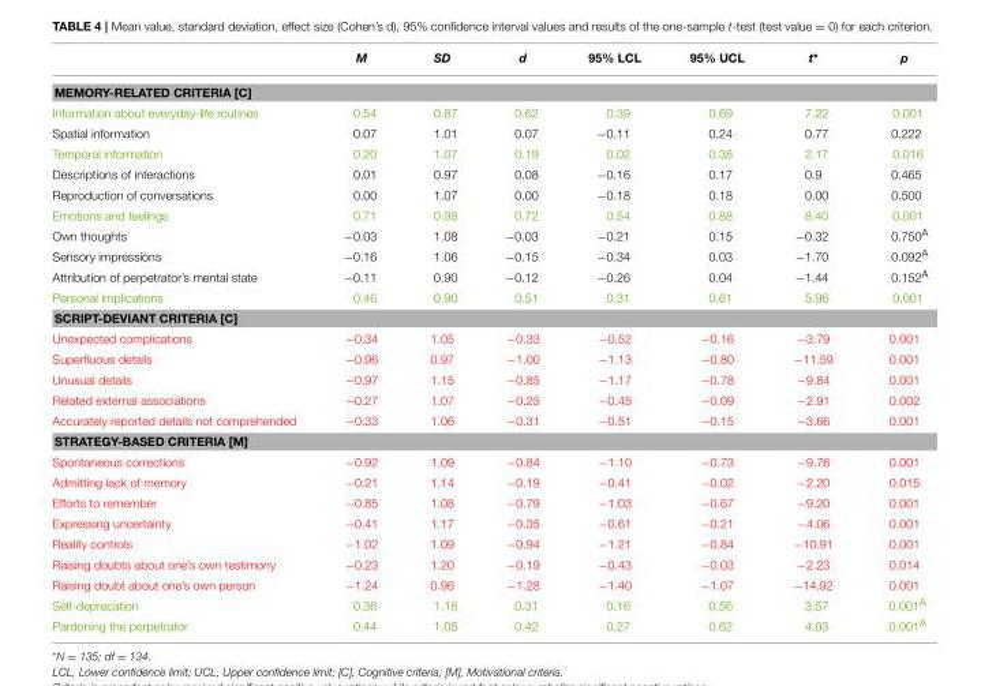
<table><thead><tr><td></td><td>M</td><td>SD</td><td>d</td><td>95% LCL</td><td>95% UCL</td><td>t*</td><td>p</td></tr></thead><tbody><tr><td colspan="8">MEMORY-RELATED CRITERIA [C]</td></tr><tr><td>Information about everyday-life routines</td><td>0.54</td><td>0.87</td><td>0.62</td><td>0.39</td><td>0.69</td><td>7.22</td><td>0.001</td></tr><tr><td>Spatial information</td><td>0.07</td><td>1.01</td><td>0.07</td><td>−0.11</td><td>0.24</td><td>0.77</td><td>0.222</td></tr><tr><td>Temporal information</td><td>0.20</td><td>1.07</td><td>0.19</td><td>0.02</td><td>0.38</td><td>2.17</td><td>0.016</td></tr><tr><td>Descriptions of interactions</td><td>0.01</td><td>0.97</td><td>0.08</td><td>−0.16</td><td>0.17</td><td>0.9</td><td>0.465</td></tr><tr><td>Reproduction of conversations</td><td>0.00</td><td>1.07</td><td>0.00</td><td>−0.18</td><td>0.18</td><td>0.00</td><td>0.500</td></tr><tr><td>Emotions and feelings</td><td>0.71</td><td>0.98</td><td>0.72</td><td>0.54</td><td>0.88</td><td>8.40</td><td>0.001</td></tr><tr><td>Own thoughts</td><td>−0.03</td><td>1.08</td><td>−0.03</td><td>−0.21</td><td>0.15</td><td>−0.32</td><td>0.750<sup>A</sup></td></tr><tr><td>Sensory impressions</td><td>−0.16</td><td>1.06</td><td>−0.15</td><td>−0.34</td><td>0.03</td><td>−1.70</td><td>0.092<sup>A</sup></td></tr><tr><td>Attribution of perpetrator’s mental state</td><td>−0.11</td><td>0.90</td><td>−0.12</td><td>−0.26</td><td>0.04</td><td>−1.44</td><td>0.152<sup>A</sup></td></tr><tr><td>Personal implications</td><td>0.46</td><td>0.90</td><td>0.51</td><td>0.31</td><td>0.61</td><td>5.96</td><td>0.001</td></tr><tr><td colspan="8">SCRIPT-DEVIANT CRITERIA [C]</td></tr><tr><td>Unexpected complications</td><td>−0.34</td><td>1.05</td><td>−0.33</td><td>−0.52</td><td>−0.16</td><td>−3.79</td><td>0.001</td></tr><tr><td>Superfluous details</td><td>−0.96</td><td>0.97</td><td>−1.00</td><td>−1.13</td><td>−0.80</td><td>−11.59</td><td>0.001</td></tr><tr><td>Unusual details</td><td>−0.97</td><td>1.15</td><td>−0.85</td><td>−1.17</td><td>−0.78</td><td>−9.84</td><td>0.001</td></tr><tr><td>Related external associations</td><td>−0.27</td><td>1.07</td><td>−0.25</td><td>−0.45</td><td>−0.09</td><td>−2.91</td><td>0.002</td></tr><tr><td>Accurately reported details not comprehended</td><td>−0.33</td><td>1.06</td><td>−0.31</td><td>−0.51</td><td>−0.15</td><td>−3.66</td><td>0.001</td></tr><tr><td colspan="8">STRATEGY-BASED CRITERIA [M]</td></tr><tr><td>Spontaneous corrections</td><td>−0.92</td><td>1.09</td><td>−0.84</td><td>−1.10</td><td>−0.73</td><td>−9.76</td><td>0.001</td></tr><tr><td>Admitting lack of memory</td><td>−0.21</td><td>1.14</td><td>−0.19</td><td>−0.41</td><td>−0.02</td><td>−2.20</td><td>0.015</td></tr><tr><td>Efforts to remember</td><td>−0.85</td><td>1.08</td><td>−0.79</td><td>−1.03</td><td>−0.67</td><td>−9.20</td><td>0.001</td></tr><tr><td>Expressing uncertainty</td><td>−0.41</td><td>1.17</td><td>−0.35</td><td>−0.61</td><td>−0.21</td><td>−4.06</td><td>0.001</td></tr><tr><td>Reality controls</td><td>−1.02</td><td>1.09</td><td>−0.94</td><td>−1.21</td><td>−0.84</td><td>−10.91</td><td>0.001</td></tr><tr><td>Raising doubts about one’s own testimony</td><td>−0.23</td><td>1.20</td><td>−0.19</td><td>−0.43</td><td>−0.03</td><td>−2.23</td><td>0.014</td></tr><tr><td>Raising doubt about one’s own person</td><td>−1.24</td><td>0.96</td><td>−1.28</td><td>−1.40</td><td>−1.07</td><td>−14.92</td><td>0.001</td></tr><tr><td>Self-deprecation</td><td>0.36</td><td>1.18</td><td>0.31</td><td>0.16</td><td>0.56</td><td>3.57</td><td>0.001<sup>A</sup></td></tr><tr><td>Pardoning the perpetrator</td><td>0.44</td><td>1.05</td><td>0.42</td><td>0.27</td><td>0.62</td><td>4.93</td><td>0.001<sup>A</sup></td></tr></tbody></table>